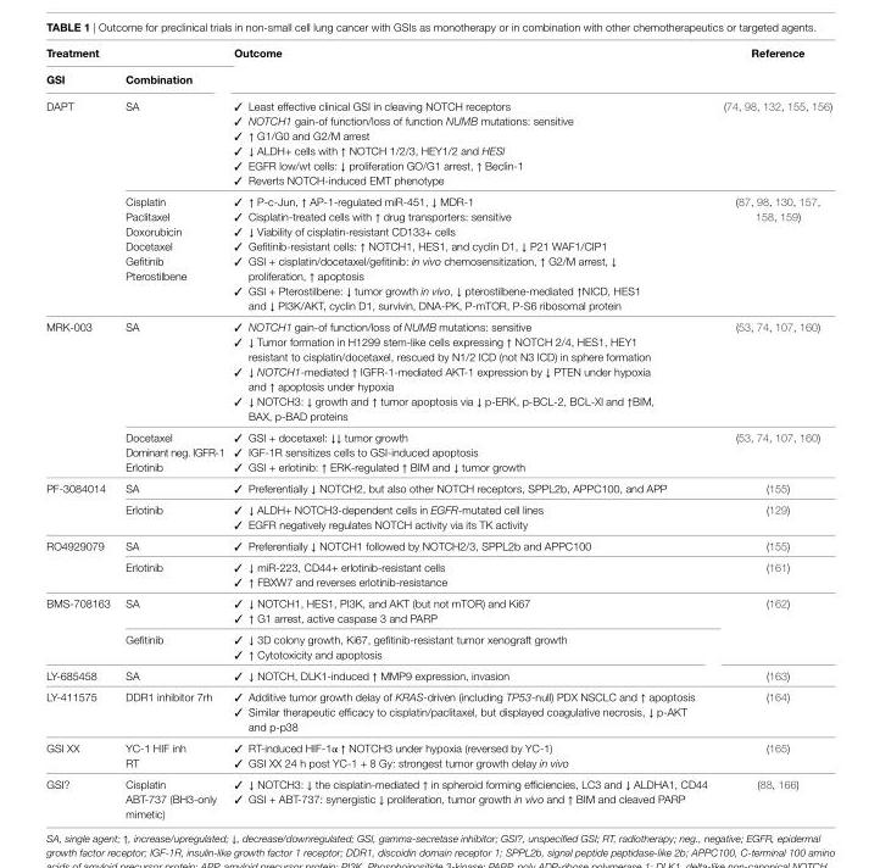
<table><thead><tr><td colspan="2">Treatment</td><td rowspan="2">Outcome</td><td rowspan="2">Reference</td></tr><tr><td>GSi</td><td>Combination</td></tr></thead><tbody><tr><td rowspan="2">DAPT</td><td>SA</td><td>✓ Least effective clinical GSI in cleaving NOTCH receptors ✓ NOTCH1 gain-of function/loss of function NUMB mutations: sensitive ✓ ↑ G1/G0 and G2/M arrest ✓ ↓ ALDH+ cells with ↑ NOTCH 1/2/3, HEY1/2 and HESl ✓ EGFR low/wt cells: ↓ proliferation GO/G1 arrest, ↑ Beclin-1 ✓ Reverts NOTCH-induced EMT phenotype</td><td>(74, 98, 132, 155, 156)</td></tr><tr><td>Cisplatin Paclitaxel Doxorubicin Docetaxel Gefitinib Pterostilbene</td><td>✓ ↑ P-c-Jun, ↑ AP-1-regulated miR-451, ↓ MDR-1 ✓ Cisplatin-treated cells with ↑ drug transporters: sensitive ✓ ↓ Viability of cisplatin-resistant CD133+ cells ✓ Gefitinib-resistant cells: ↑ NOTCH1, HES1, and cyclin D1, ↓ P21 WAF1/CIP1 ✓ GSI + cisplatin/docetaxel/gefitinib: in vivo chemosensitization, ↑ G2/M arrest, ↓ proliferation, ↑ apoptosis ✓ GSI + Pterostilbene: ↓ tumor growth in vivo, ↓ pterostilbene-mediated ↑NICD, HES1 and ↓ PI3K/AKT, cyclin D1, survivin, DNA-PK, P-mTOR, P-S6 ribosomal protein</td><td>(87, 98, 130, 157, 158, 159)</td></tr><tr><td rowspan="2">MRK-003</td><td>SA</td><td>✓ NOTCH1 gain-of function/loss of NUMB mutations: sensitive ✓ ↓ Tumor formation in H1299 stem-like cells expressing ↑ NOTCH 2/4, HES1, HEY1 resistant to cisplatin/docetaxel, rescued by N1/2 ICD (not N3 ICD) in sphere formation ✓ ↓ NOTCH1-mediated ↑ IGFR-1-mediated AKT-1 expression by ↓ PTEN under hypoxia and ↑ apoptosis under hypoxia ✓ ↓ NOTCH3: ↓ growth and ↑ tumor apoptosis via ↓ p-ERK, p-BCL-2, BCL-Xl and ↑BIM, BAX, p-BAD proteins</td><td>(53, 74, 107, 160)</td></tr><tr><td>Docetaxel Dominant neg. IGFR-1 Erlotinib</td><td>✓ GSI + docetaxel: ↓↓ tumor growth ✓ IGF-1R sensitizes cells to GSI-induced apoptosis ✓ GSI + erlotinib: ↑ ERK-regulated ↑ BIM and ↓ tumor growth</td><td>(53, 74, 107, 160)</td></tr><tr><td rowspan="2">PF-3084014</td><td>SA</td><td>✓ Preferentially ↓ NOTCH2, but also other NOTCH receptors, SPPL2b, APPC100, and APP</td><td>(155)</td></tr><tr><td>Erlotinib</td><td>✓ ↓ ALDH+ NOTCH3-dependent cells in EGFR-mutated cell lines ✓ EGFR negatively regulates NOTCH activity via its TK activity</td><td>(129)</td></tr><tr><td rowspan="2">RO4929079</td><td>SA</td><td>✓ Preferentially ↓ NOTCH1 followed by NOTCH2/3, SPPL2b and APPC100</td><td>(155)</td></tr><tr><td>Erlotinib</td><td>✓ ↓ miR-223, CD44+ erlotinib-resistant cells ✓ ↑ FBXW7 and reverses erlotinib-resistance</td><td>(161)</td></tr><tr><td rowspan="2">BMS-708163</td><td>SA</td><td>✓ ↓ NOTCH1, HES1, PI3K, and AKT (but not mTOR) and Ki67 ✓ ↑ G1 arrest, active caspase 3 and PARP</td><td rowspan="2">(162)</td></tr><tr><td>Gefitinib</td><td>✓ ↓ 3D colony growth, Ki67, gefitinib-resistant tumor xenograft growth ✓ ↑ Cytotoxicity and apoptosis</td></tr><tr><td>LY-685458</td><td>SA</td><td>✓ ↓ NOTCH, DLK1-induced ↑ MMP9 expression, invasion</td><td>(163)</td></tr><tr><td>LY-411575</td><td>DDR1 inhibitor 7rh</td><td>✓ Additive tumor growth delay of KRAS-driven (including TP53-null) PDX NSCLC and ↑ apoptosis ✓ Similar therapeutic efficacy to cisplatin/paclitaxel, but displayed coagulative necrosis, ↓ p-AKT and p-p38</td><td>(164)</td></tr><tr><td>GSI XX</td><td>YC-1 HIF inh RT</td><td>✓ RT-induced HIF-1α ↑ NOTCH3 under hypoxia (reversed by YC-1) ✓ GSI XX 24 h post YC-1 + 8 Gy: strongest tumor growth delay in vivo</td><td>(165)</td></tr><tr><td>GSI?</td><td>Cisplatin ABT-737 (BH3-only mimetic)</td><td>✓ ↓ NOTCH3: ↓ the cisplatin-mediated ↑ in spheroid forming efficiencies, LC3 and ↓ ALDHA1, CD44 ✓ GSI + ABT-737: synergistic ↓ proliferation, tumor growth in vivo and ↑ BIM and cleaved PARP</td><td>(88, 166)</td></tr></tbody></table>